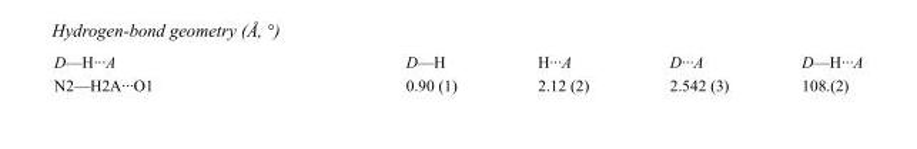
<table><tbody><tr><td>D—H···A</td><td>D—H</td><td>H···A</td><td>D···A</td><td>D—H···A</td></tr><tr><td>N2—H2A···O1</td><td>0.90 (1)</td><td>2.12 (2)</td><td>2.542 (3)</td><td>108.(2)</td></tr></tbody></table>